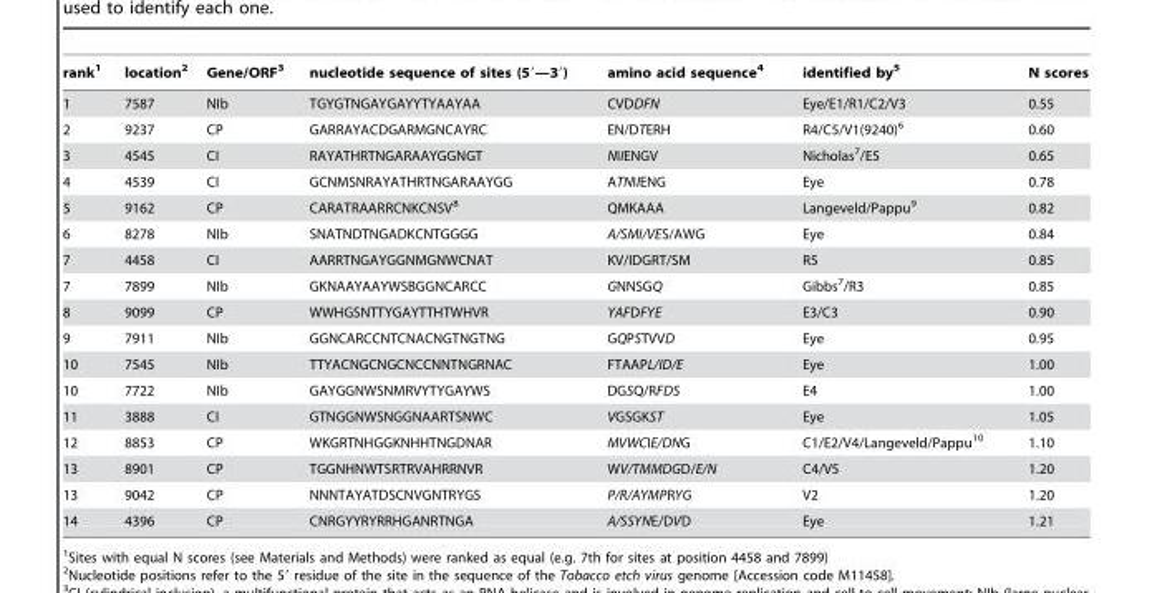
<table><thead><tr><td>rank<sup>1</sup></td><td>location<sup>2</sup></td><td>Gene/ORF<sup>3</sup></td><td>nucleotide sequence of sites (5′—3′)</td><td>amino acid sequence<sup>4</sup></td><td>identified by<sup>5</sup></td><td>N scores</td></tr></thead><tbody><tr><td>1</td><td>7587</td><td>NIb</td><td>TGYGTNGAYGAYYTYAAYAA</td><td>CVDDFN</td><td>Eye/E1/R1/C2/V3</td><td>0.55</td></tr><tr><td>2</td><td>9237</td><td>CP</td><td>GARRAYACDGARMGNCAYRC</td><td>EN/DTERH</td><td>R4/C5/V1(9240)<sup>6</sup></td><td>0.60</td></tr><tr><td>3</td><td>4545</td><td>CI</td><td>RAYATHRTNGARAAYGGNGT</td><td>NIIENGV</td><td>Nicholas<sup>7</sup>/E5</td><td>0.65</td></tr><tr><td>4</td><td>4539</td><td>CI</td><td>GCNMSNRAYATHRTNGARAAYGG</td><td>ATNIIENG</td><td>Eye</td><td>0.78</td></tr><tr><td>5</td><td>9162</td><td>CP</td><td>CARATRAARRCNKCNSV<sup>8</sup></td><td>QMKAAA</td><td>Langeveld/Pappu<sup>9</sup></td><td>0.82</td></tr><tr><td>6</td><td>8278</td><td>NIb</td><td>SNATNDTNGADKCNTGGGG</td><td>A/SMI/VES/AWG</td><td>Eye</td><td>0.84</td></tr><tr><td>7</td><td>4458</td><td>CI</td><td>AARRTNGAYGGNMGNWCNAT</td><td>KV/IDGRT/SM</td><td>R5</td><td>0.85</td></tr><tr><td>7</td><td>7899</td><td>NIb</td><td>GKNAAYAAYWSBGGNCARCC</td><td>GNNSGQ</td><td>Gibbs<sup>7</sup>/R3</td><td>0.85</td></tr><tr><td>8</td><td>9099</td><td>CP</td><td>WWHGSNTTYGAYTTHTWHVR</td><td>YAFDFYE</td><td>E3/C3</td><td>0.90</td></tr><tr><td>9</td><td>7911</td><td>NIb</td><td>GGNCARCCNTCNACNGTNGTNG</td><td>GQPSTVVD</td><td>Eye</td><td>0.95</td></tr><tr><td>10</td><td>7545</td><td>NIb</td><td>TTYACNGCNGCNCCNNTNGRNAC</td><td>FTAAPL/ID/E</td><td>Eye</td><td>1.00</td></tr><tr><td>10</td><td>7722</td><td>NIb</td><td>GAYGGNWSNMRVYTYGAYWS</td><td>DGSQ/RFDS</td><td>E4</td><td>1.00</td></tr><tr><td>11</td><td>3888</td><td>CI</td><td>GTNGGNWSNGGNAARTSNWC</td><td>VGSGKST</td><td>Eye</td><td>1.05</td></tr><tr><td>12</td><td>8853</td><td>CP</td><td>WKGRTNHGGKNHHTNGDNAR</td><td>MVWCIE/DNG</td><td>C1/E2/V4/Langeveld/Pappu<sup>10</sup></td><td>1.10</td></tr><tr><td>13</td><td>8901</td><td>CP</td><td>TGGNHNWTSRTRVAHRRNVR</td><td>WV/TMMDGD/E/N</td><td>C4/V5</td><td>1.20</td></tr><tr><td>13</td><td>9042</td><td>CP</td><td>NNNTAYATDSCNVGNTRYGS</td><td>P/R/AYMPRYG</td><td>V2</td><td>1.20</td></tr><tr><td>14</td><td>4396</td><td>CP</td><td>CNRGYYRYRRHGANRTNGA</td><td>A/SSYNE/DVD</td><td>Eye</td><td>1.21</td></tr></tbody></table>